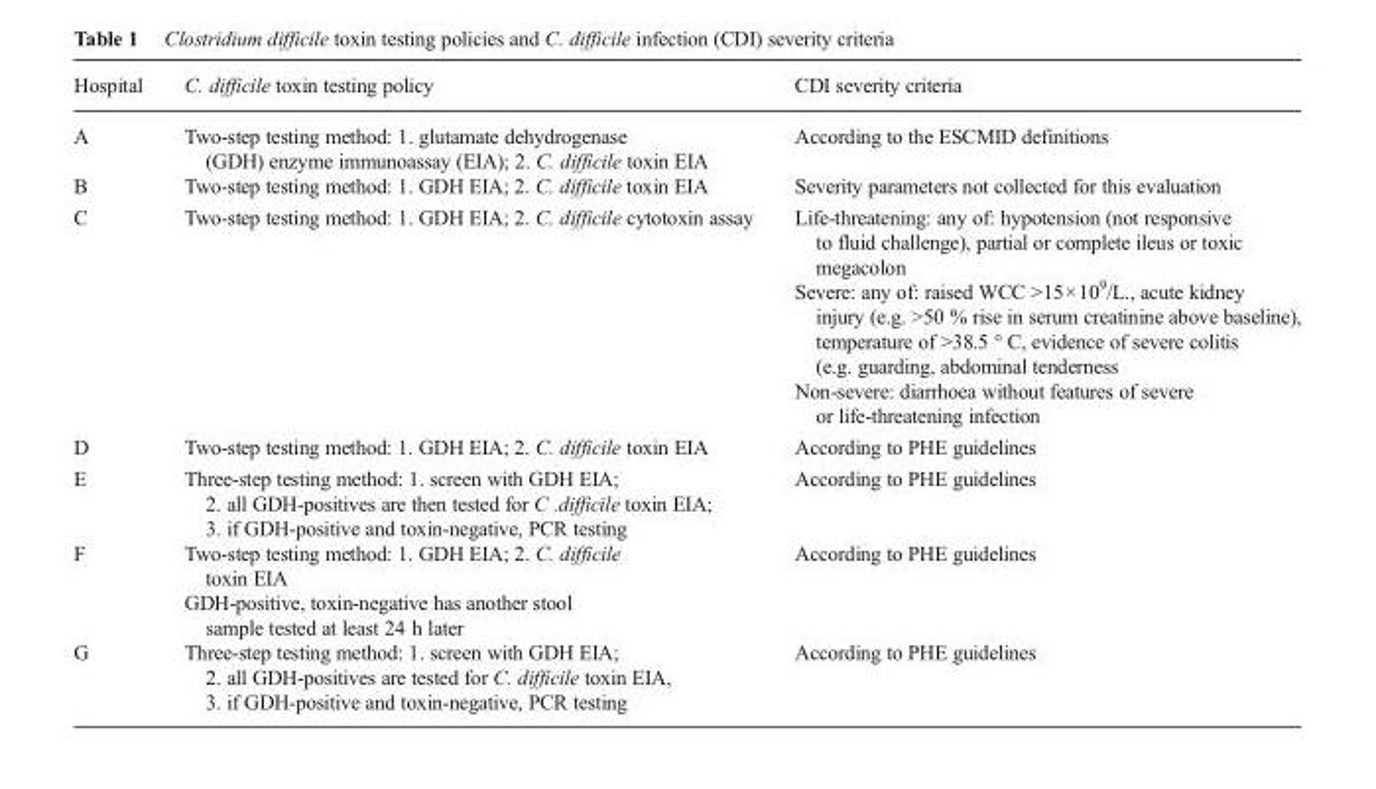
<table><thead><tr><td>Hospital</td><td>C. difficile toxin testing policy</td><td>CDI severity criteria</td></tr></thead><tbody><tr><td>A</td><td>Two-step testing method: 1. glutamate dehydrogenase (GDH) enzyme immunoassay (EIA); 2. C. difficile toxin EIA</td><td>According to the ESCMID definitions</td></tr><tr><td>B</td><td>Two-step testing method: 1. GDH EIA; 2. C. difficile toxin EIA</td><td>Severity parameters not collected for this evaluation</td></tr><tr><td>C</td><td>Two-step testing method: 1. GDH EIA; 2. C. difficile cytotoxin assay</td><td>Life-threatening: any of: hypotension (not responsive to fluid challenge), partial or complete ileus or toxic megacolon Severe: any of: raised WCC &gt;15×109/L., acute kidney injury (e.g. &gt;50 % rise in serum creatinine above baseline), temperature of &gt;38.5 ° C, evidence of severe colitis (e.g. guarding, abdominal tenderness Non-severe: diarrhoea without features of severe or life-threatening infection</td></tr><tr><td>D</td><td>Two-step testing method: 1. GDH EIA; 2. C. difficile toxin EIA</td><td>According to PHE guidelines</td></tr><tr><td>E</td><td>Three-step testing method: 1. screen with GDH EIA; 2. all GDH-positives are then tested for C .difficile toxin EIA; 3. if GDH-positive and toxin-negative, PCR testing</td><td>According to PHE guidelines</td></tr><tr><td>F</td><td>Two-step testing method: 1. GDH EIA; 2. C. difficile toxin EIA GDH-positive, toxin-negative has another stool sample tested at least 24 h later</td><td>According to PHE guidelines</td></tr><tr><td>G</td><td>Three-step testing method: 1. screen with GDH EIA; 2. all GDH-positives are tested for C. difficile toxin EIA, 3. if GDH-positive and toxin-negative, PCR testing</td><td>According to PHE guidelines</td></tr></tbody></table>